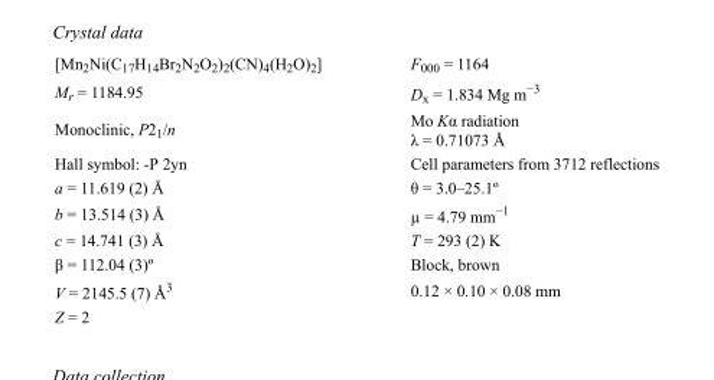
<table><tbody><tr><td>[Mn<sub>2</sub>Ni(C<sub>17</sub>H<sub>14</sub>Br<sub>2</sub>N<sub>2</sub>O<sub>2</sub>)<sub>2</sub>(CN)<sub>4</sub>(H<sub>2</sub>O)<sub>2</sub>]</td><td>F<sub>000</sub> = 1164</td></tr><tr><td>M<sub>r</sub> = 1184.95</td><td>D<sub>x</sub> = 1.834 Mg m<sup>−3</sup></td></tr><tr><td>Monoclinic, P2<sub>1</sub>/n</td><td>Mo Kα radiation λ = 0.71073 Å</td></tr><tr><td>Hall symbol: -P 2yn</td><td>Cell parameters from 3712 reflections</td></tr><tr><td>a = 11.619 (2) Å</td><td>θ = 3.0–25.1º</td></tr><tr><td>b = 13.514 (3) Å</td><td>µ = 4.79 mm<sup>−1</sup></td></tr><tr><td>c = 14.741 (3) Å</td><td>T = 293 (2) K</td></tr><tr><td>β = 112.04 (3)º</td><td>Block, brown</td></tr><tr><td>V = 2145.5 (7) Å<sup>3</sup></td><td>0.12 × 0.10 × 0.08 mm</td></tr><tr><td>Z = 2</td><td></td></tr></tbody></table>